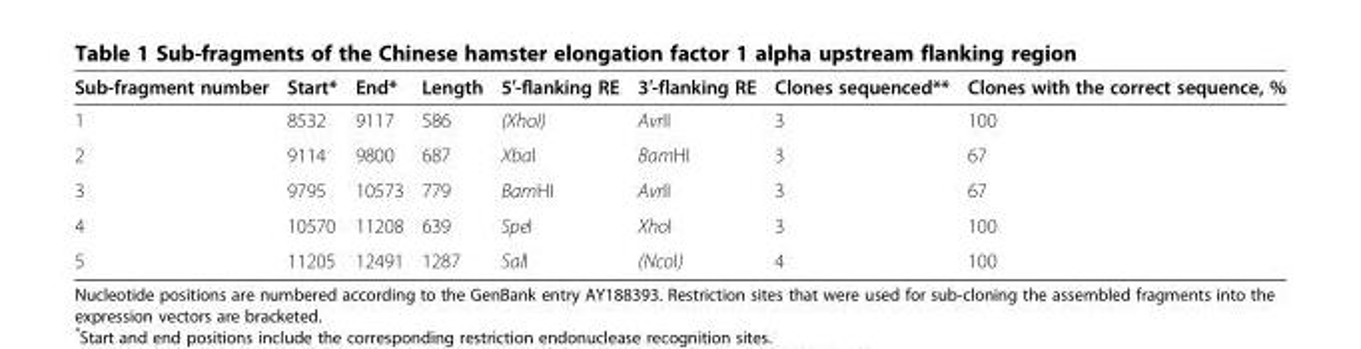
<table><thead><tr><td>Sub-fragment number</td><td>Start*</td><td>End*</td><td>Length</td><td>5′-flanking RE</td><td>3′-flanking RE</td><td>Clones sequenced**</td><td>Clones with the correct sequence, %</td></tr></thead><tbody><tr><td>1</td><td>8532</td><td>9117</td><td>586</td><td>(XhoI)</td><td>AvrII</td><td>3</td><td>100</td></tr><tr><td>2</td><td>9114</td><td>9800</td><td>687</td><td>XbaI</td><td>BamHI</td><td>3</td><td>67</td></tr><tr><td>3</td><td>9795</td><td>10573</td><td>779</td><td>BamHI</td><td>AvrII</td><td>3</td><td>67</td></tr><tr><td>4</td><td>10570</td><td>11208</td><td>639</td><td>SpeI</td><td>XhoI</td><td>3</td><td>100</td></tr><tr><td>5</td><td>11205</td><td>12491</td><td>1287</td><td>SalI</td><td>(NcoI)</td><td>4</td><td>100</td></tr></tbody></table>